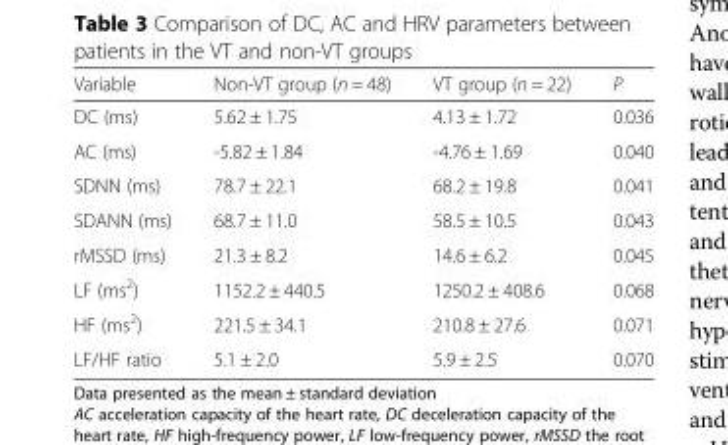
<table><thead><tr><td>Variable</td><td>Non-VT group (n = 48)</td><td>VT group (n = 22)</td><td>P</td></tr></thead><tbody><tr><td>DC (ms)</td><td>5.62 ± 1.75</td><td>4.13 ± 1.72</td><td>0.036</td></tr><tr><td>AC (ms)</td><td>-5.82 ± 1.84</td><td>-4.76 ± 1.69</td><td>0.040</td></tr><tr><td>SDNN (ms)</td><td>78.7 ± 22.1</td><td>68.2 ± 19.8</td><td>0.041</td></tr><tr><td>SDANN (ms)</td><td>68.7 ± 11.0</td><td>58.5 ± 10.5</td><td>0.043</td></tr><tr><td>rMSSD (ms)</td><td>21.3 ± 8.2</td><td>14.6 ± 6.2</td><td>0.045</td></tr><tr><td>LF (ms<sup>2</sup>)</td><td>1152.2 ± 440.5</td><td>1250.2 ± 408.6</td><td>0.068</td></tr><tr><td>HF (ms<sup>2</sup>)</td><td>221.5 ± 34.1</td><td>210.8 ± 27.6</td><td>0.071</td></tr><tr><td>LF/HF ratio</td><td>5.1 ± 2.0</td><td>5.9 ± 2.5</td><td>0.070</td></tr></tbody></table>